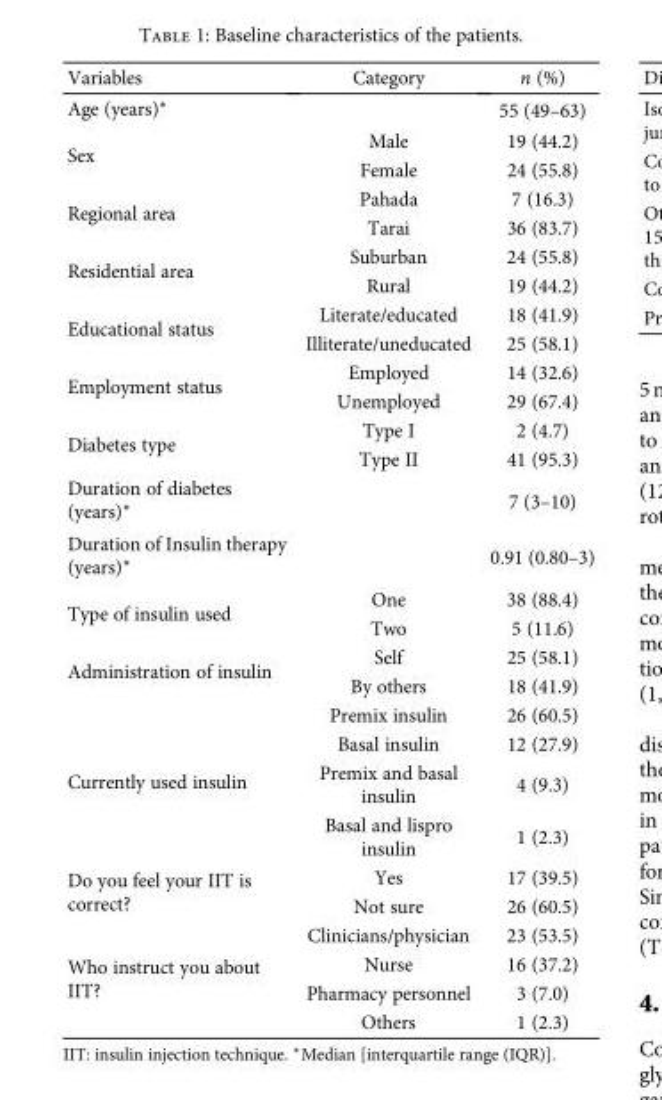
<table><thead><tr><td>Variables</td><td>Category</td><td>n (%)</td></tr></thead><tbody><tr><td>Age (years)∗</td><td></td><td>55 (49–63)</td></tr><tr><td rowspan="2">Sex</td><td>Male</td><td>19 (44.2)</td></tr><tr><td>Female</td><td>24 (55.8)</td></tr><tr><td rowspan="2">Regional area</td><td>Pahada</td><td>7 (16.3)</td></tr><tr><td>Tarai</td><td>36 (83.7)</td></tr><tr><td rowspan="2">Residential area</td><td>Suburban</td><td>24 (55.8)</td></tr><tr><td>Rural</td><td>19 (44.2)</td></tr><tr><td rowspan="2">Educational status</td><td>Literate/educated</td><td>18 (41.9)</td></tr><tr><td>Illiterate/uneducated</td><td>25 (58.1)</td></tr><tr><td rowspan="2">Employment status</td><td>Employed</td><td>14 (32.6)</td></tr><tr><td>Unemployed</td><td>29 (67.4)</td></tr><tr><td rowspan="2">Diabetes type</td><td>Type I</td><td>2 (4.7)</td></tr><tr><td>Type II</td><td>41 (95.3)</td></tr><tr><td>Duration of diabetes (years)∗</td><td></td><td>7 (3–10)</td></tr><tr><td>Duration of Insulin therapy (years)∗</td><td></td><td>0.91 (0.80–3)</td></tr><tr><td rowspan="2">Type of insulin used</td><td>One</td><td>38 (88.4)</td></tr><tr><td>Two</td><td>5 (11.6)</td></tr><tr><td rowspan="2">Administration of insulin</td><td>Self</td><td>25 (58.1)</td></tr><tr><td>By others</td><td>18 (41.9)</td></tr><tr><td rowspan="4">Currently used insulin</td><td>Premix insulin</td><td>26 (60.5)</td></tr><tr><td>Basal insulin</td><td>12 (27.9)</td></tr><tr><td>Premix and basal insulin</td><td>4 (9.3)</td></tr><tr><td>Basal and lispro insulin</td><td>1 (2.3)</td></tr><tr><td rowspan="2">Do you feel your IIT is correct?</td><td>Yes</td><td>17 (39.5)</td></tr><tr><td>Not sure</td><td>26 (60.5)</td></tr><tr><td rowspan="4">Who instruct you about IIT?</td><td>Clinicians/physician</td><td>23 (53.5)</td></tr><tr><td>Nurse</td><td>16 (37.2)</td></tr><tr><td>Pharmacy personnel</td><td>3 (7.0)</td></tr><tr><td>Others</td><td>1 (2.3)</td></tr></tbody></table>